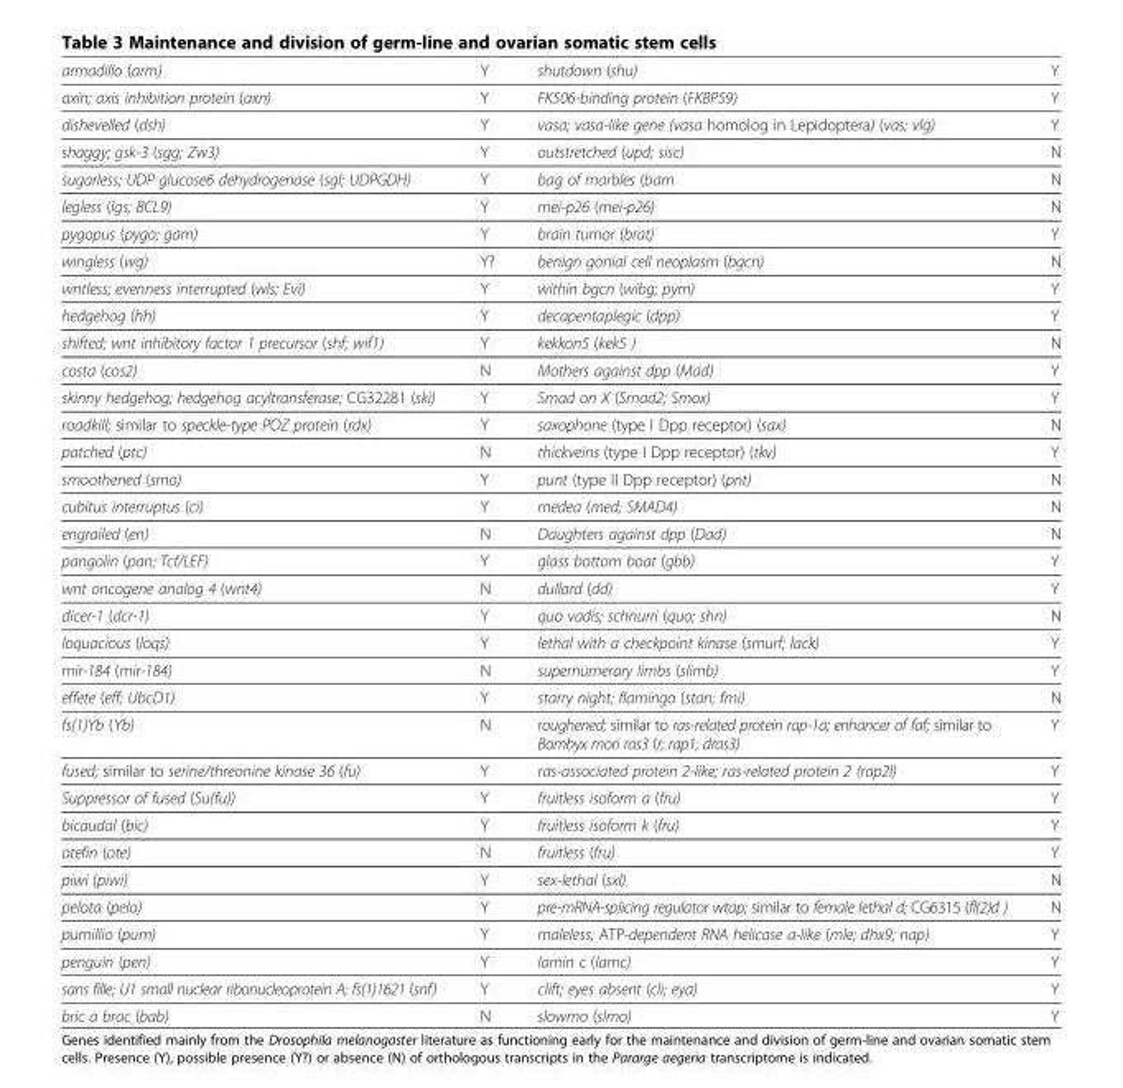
<table><tbody><tr><td>armadillo (arm)</td><td>Y</td><td>shutdown (shu)</td><td>Y</td></tr><tr><td>axin; axis inhibition protein (axn)</td><td>Y</td><td>FK506-binding protein (FKBP59)</td><td>Y</td></tr><tr><td>dishevelled (dsh)</td><td>Y</td><td>vasa; vasa-like gene (vasa homolog in Lepidoptera) (vas; vlg)</td><td>Y</td></tr><tr><td>shaggy; gsk-3 (sgg; Zw3)</td><td>Y</td><td>outstretched (upd; sisc)</td><td>N</td></tr><tr><td>sugarless; UDP glucose6 dehydrogenase (sgl; UDPGDH)</td><td>Y</td><td>bag of marbles (bam</td><td>N</td></tr><tr><td>legless (lgs; BCL9)</td><td>Y</td><td>mei-p26 (mei-p26)</td><td>N</td></tr><tr><td>pygopus (pygo; gam)</td><td>Y</td><td>brain tumor (brat)</td><td>Y</td></tr><tr><td>wingless (wg)</td><td>Y?</td><td>benign gonial cell neoplasm (bgcn)</td><td>N</td></tr><tr><td>wntless; evenness interrupted (wls; Evi)</td><td>Y</td><td>within bgcn (wibg; pym)</td><td>Y</td></tr><tr><td>hedgehog (hh)</td><td>Y</td><td>decapentaplegic (dpp)</td><td>Y</td></tr><tr><td>shifted; wnt inhibitory factor 1 precursor (shf; wif1)</td><td>Y</td><td>kekkon5 (kek5 )</td><td>N</td></tr><tr><td>costa (cos2)</td><td>N</td><td>Mothers against dpp (Mad)</td><td>Y</td></tr><tr><td>skinny hedgehog; hedgehog acyltransferase; CG32281 (ski)</td><td>Y</td><td>Smad on X (Smad2; Smox)</td><td>Y</td></tr><tr><td>roadkill; similar to speckle-type POZ protein (rdx)</td><td>Y</td><td>saxophone (type I Dpp receptor) (sax)</td><td>N</td></tr><tr><td>patched (ptc)</td><td>N</td><td>thickveins (type I Dpp receptor) (tkv)</td><td>Y</td></tr><tr><td>smoothened (smo)</td><td>Y</td><td>punt (type II Dpp receptor) (pnt)</td><td>N</td></tr><tr><td>cubitus interruptus (ci)</td><td>Y</td><td>medea (med; SMAD4)</td><td>N</td></tr><tr><td>engrailed (en)</td><td>N</td><td>Daughters against dpp (Dad)</td><td>N</td></tr><tr><td>pangolin (pan; Tcf/LEF)</td><td>Y</td><td>glass bottom boat (gbb)</td><td>Y</td></tr><tr><td>wnt oncogene analog 4 (wnt4)</td><td>N</td><td>dullard (dd)</td><td>Y</td></tr><tr><td>dicer-1 (dcr-1)</td><td>Y</td><td>quo vadis; schnurri (quo; shn)</td><td>N</td></tr><tr><td>loquacious (loqs)</td><td>Y</td><td>lethal with a checkpoint kinase (smurf; lack)</td><td>Y</td></tr><tr><td>mir-184 (mir-184)</td><td>N</td><td>supernumerary limbs (slimb)</td><td>Y</td></tr><tr><td>effete (eff; UbcD1)</td><td>Y</td><td>starry night; flamingo (stan; fmi)</td><td>N</td></tr><tr><td>fs(1)Yb (Yb)</td><td>N</td><td>roughened; similar to ras-related protein rap-1a; enhancer of faf; similar to Bombyx mori ras3 (r; rap1; dras3)</td><td>Y</td></tr><tr><td>fused; similar to serine/threonine kinase 36 (fu)</td><td>Y</td><td>ras-associated protein 2-like; ras-related protein 2 (rap2l)</td><td>Y</td></tr><tr><td>Suppressor of fused (Su(fu))</td><td>Y</td><td>fruitless isoform a (fru)</td><td>Y</td></tr><tr><td>bicaudal (bic)</td><td>Y</td><td>fruitless isoform k (fru)</td><td>Y</td></tr><tr><td>otefin (ote)</td><td>N</td><td>fruitless (fru)</td><td>Y</td></tr><tr><td>piwi (piwi)</td><td>Y</td><td>sex-lethal (sxl)</td><td>N</td></tr><tr><td>pelota (pelo)</td><td>Y</td><td>pre-mRNA-splicing regulator wtap; similar to female lethal d; CG6315 (fl(2)d )</td><td>N</td></tr><tr><td>pumillio (pum)</td><td>Y</td><td>maleless; ATP-dependent RNA helicase a-like (mle; dhx9; nap)</td><td>Y</td></tr><tr><td>penguin (pen)</td><td>Y</td><td>lamin c (lamc)</td><td>Y</td></tr><tr><td>sans fille; U1 small nuclear ribonucleoprotein A; fs(1)1621 (snf)</td><td>Y</td><td>clift; eyes absent (cli; eya)</td><td>Y</td></tr><tr><td>bric a brac (bab)</td><td>N</td><td>slowmo (slmo)</td><td>Y</td></tr></tbody></table>